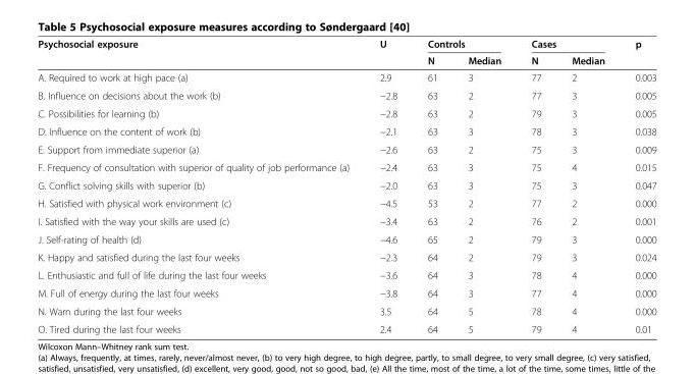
<table><thead><tr><td rowspan="2">Psychosocial exposure</td><td rowspan="2">U</td><td colspan="2">Controls</td><td colspan="2">Cases</td><td rowspan="2">p</td></tr><tr><td>N</td><td>Median</td><td>N</td><td>Median</td></tr></thead><tbody><tr><td>A. Required to work at high pace (a)</td><td>2.9</td><td>61</td><td>3</td><td>77</td><td>2</td><td>0.003</td></tr><tr><td>B. Influence on decisions about the work (b)</td><td>−2.8</td><td>63</td><td>2</td><td>77</td><td>3</td><td>0.005</td></tr><tr><td>C. Possibilities for learning (b)</td><td>−2.8</td><td>63</td><td>2</td><td>79</td><td>3</td><td>0.005</td></tr><tr><td>D. Influence on the content of work (b)</td><td>−2.1</td><td>63</td><td>3</td><td>78</td><td>3</td><td>0.038</td></tr><tr><td>E. Support from immediate superior (a)</td><td>−2.6</td><td>63</td><td>2</td><td>75</td><td>3</td><td>0.009</td></tr><tr><td>F. Frequency of consultation with superior of quality of job performance (a)</td><td>−2.4</td><td>63</td><td>3</td><td>75</td><td>4</td><td>0.015</td></tr><tr><td>G. Conflict solving skills with superior (b)</td><td>−2.0</td><td>63</td><td>3</td><td>75</td><td>3</td><td>0.047</td></tr><tr><td>H. Satisfied with physical work environment (c)</td><td>−4.5</td><td>53</td><td>2</td><td>77</td><td>2</td><td>0.000</td></tr><tr><td>I. Satisfied with the way your skills are used (c)</td><td>−3.4</td><td>63</td><td>2</td><td>76</td><td>2</td><td>0.001</td></tr><tr><td>J. Self-rating of health (d)</td><td>−4.6</td><td>65</td><td>2</td><td>79</td><td>3</td><td>0.000</td></tr><tr><td>K. Happy and satisfied during the last four weeks</td><td>−2.3</td><td>64</td><td>2</td><td>79</td><td>3</td><td>0.024</td></tr><tr><td>L. Enthusiastic and full of life during the last four weeks</td><td>−3.6</td><td>64</td><td>3</td><td>78</td><td>4</td><td>0.000</td></tr><tr><td>M. Full of energy during the last four weeks</td><td>−3.8</td><td>64</td><td>3</td><td>77</td><td>4</td><td>0.000</td></tr><tr><td>N. Warn during the last four weeks</td><td>3.5</td><td>64</td><td>5</td><td>78</td><td>4</td><td>0.000</td></tr><tr><td>O. Tired during the last four weeks</td><td>2.4</td><td>64</td><td>5</td><td>79</td><td>4</td><td>0.01</td></tr></tbody></table>